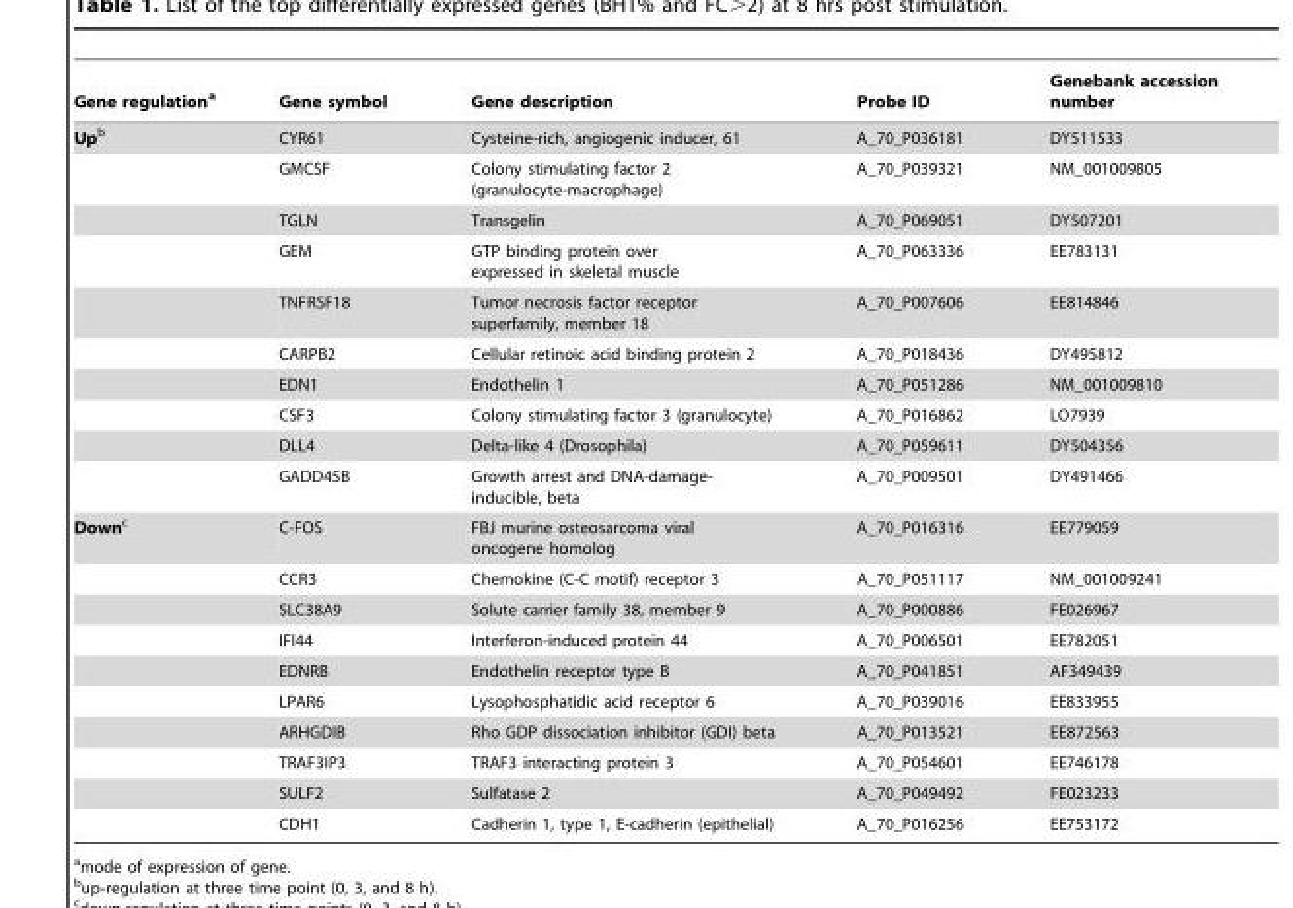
<table><thead><tr><td>Gene regulation<sup>a</sup></td><td>Gene symbol</td><td>Gene description</td><td>Probe ID</td><td>Genebank accession number</td></tr></thead><tbody><tr><td rowspan="10">Upb</td><td>CYR61</td><td>Cysteine-rich, angiogenic inducer, 61</td><td>A_70_P036181</td><td>DY511533</td></tr><tr><td>GMCSF</td><td>Colony stimulating factor 2 (granulocyte-macrophage)</td><td>A_70_P039321</td><td>NM_001009805</td></tr><tr><td>TGLN</td><td>Transgelin</td><td>A_70_P069051</td><td>DY507201</td></tr><tr><td>GEM</td><td>GTP binding protein over expressed in skeletal muscle</td><td>A_70_P063336</td><td>EE783131</td></tr><tr><td>TNFRSF18</td><td>Tumor necrosis factor receptor superfamily, member 18</td><td>A_70_P007606</td><td>EE814846</td></tr><tr><td>CARPB2</td><td>Cellular retinoic acid binding protein 2</td><td>A_70_P018436</td><td>DY495812</td></tr><tr><td>EDN1</td><td>Endothelin 1</td><td>A_70_P051286</td><td>NM_001009810</td></tr><tr><td>CSF3</td><td>Colony stimulating factor 3 (granulocyte)</td><td>A_70_P016862</td><td>LO7939</td></tr><tr><td>DLL4</td><td>Delta-like 4 (Drosophila)</td><td>A_70_P059611</td><td>DY504356</td></tr><tr><td>GADD45B</td><td>Growth arrest and DNA-damage- inducible, beta</td><td>A_70_P009501</td><td>DY491466</td></tr><tr><td rowspan="10">Downc</td><td>C-FOS</td><td>FBJ murine osteosarcoma viral oncogene homolog</td><td>A_70_P016316</td><td>EE779059</td></tr><tr><td>CCR3</td><td>Chemokine (C-C motif) receptor 3</td><td>A_70_P051117</td><td>NM_001009241</td></tr><tr><td>SLC38A9</td><td>Solute carrier family 38, member 9</td><td>A_70_P000886</td><td>FE026967</td></tr><tr><td>IFI44</td><td>Interferon-induced protein 44</td><td>A_70_P006501</td><td>EE782051</td></tr><tr><td>EDNRB</td><td>Endothelin receptor type B</td><td>A_70_P041851</td><td>AF349439</td></tr><tr><td>LPAR6</td><td>Lysophosphatidic acid receptor 6</td><td>A_70_P039016</td><td>EE833955</td></tr><tr><td>ARHGDIB</td><td>Rho GDP dissociation inhibitor (GDI) beta</td><td>A_70_P013521</td><td>EE872563</td></tr><tr><td>TRAF3IP3</td><td>TRAF3 interacting protein 3</td><td>A_70_P054601</td><td>EE746178</td></tr><tr><td>SULF2</td><td>Sulfatase 2</td><td>A_70_P049492</td><td>FE023233</td></tr><tr><td>CDH1</td><td>Cadherin 1, type 1, E-cadherin (epithelial)</td><td>A_70_P016256</td><td>EE753172</td></tr></tbody></table>